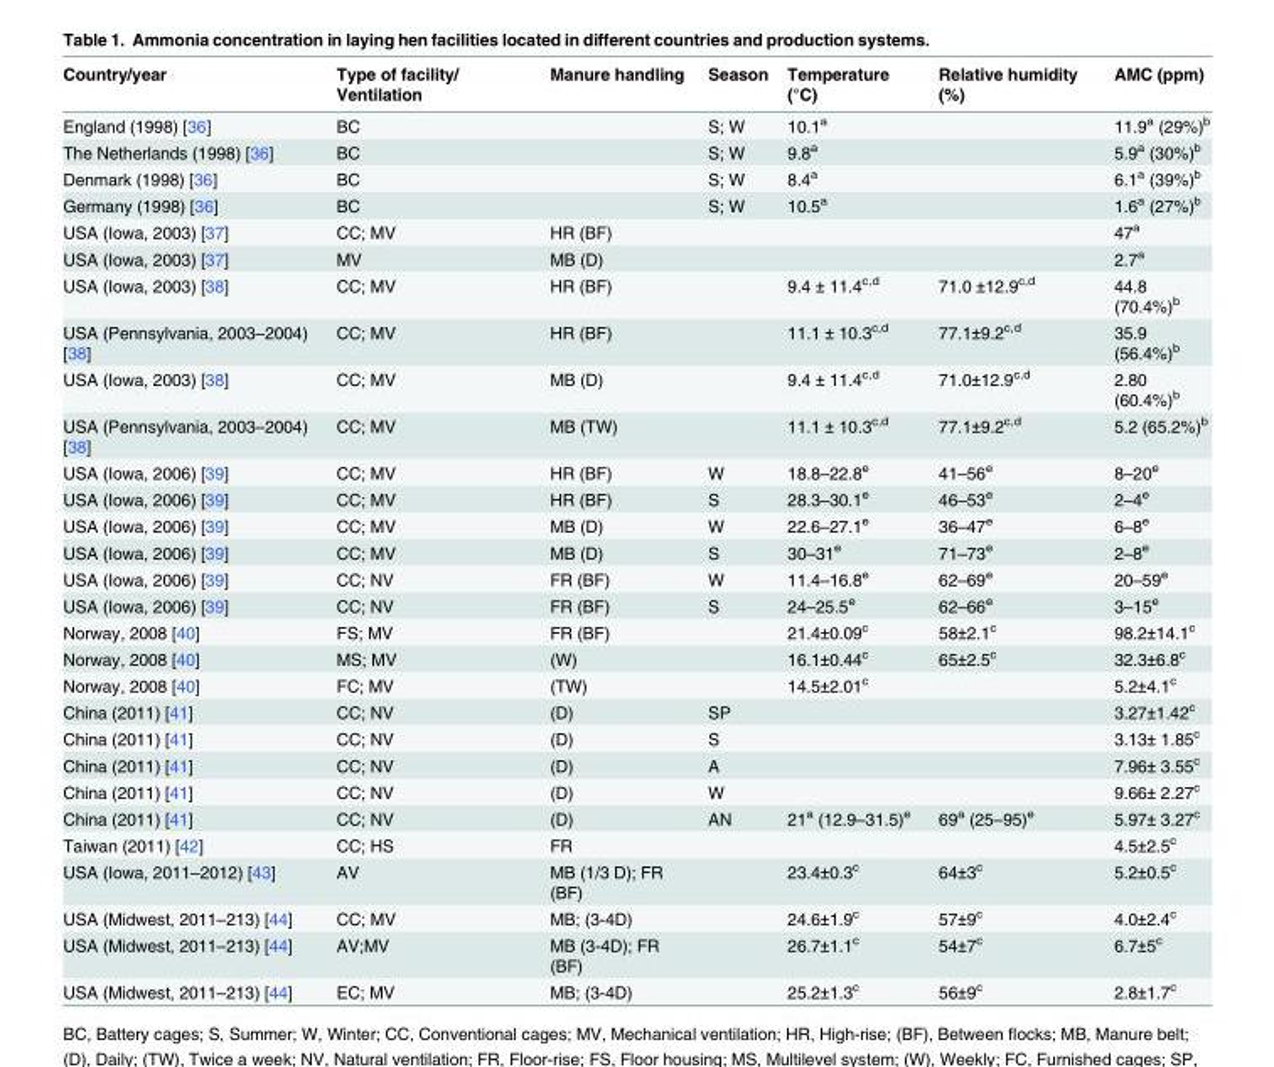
<table><thead><tr><td>Country/year</td><td>Type of facility/ Ventilation</td><td>Manure handling</td><td>Season</td><td>Temperature (°C)</td><td>Relative humidity (%)</td><td>AMC (ppm)</td></tr></thead><tbody><tr><td>England (1998) [36]</td><td>BC</td><td></td><td>S; W</td><td>10.1<sup>a</sup></td><td></td><td>11.9<sup>a</sup> (29%)<sup>b</sup></td></tr><tr><td>The Netherlands (1998) [36]</td><td>BC</td><td></td><td>S; W</td><td>9.8<sup>a</sup></td><td></td><td>5.9<sup>a</sup> (30%)<sup>b</sup></td></tr><tr><td>Denmark (1998) [36]</td><td>BC</td><td></td><td>S; W</td><td>8.4<sup>a</sup></td><td></td><td>6.1<sup>a</sup> (39%)<sup>b</sup></td></tr><tr><td>Germany (1998) [36]</td><td>BC</td><td></td><td>S; W</td><td>10.5<sup>a</sup></td><td></td><td>1.6<sup>a</sup> (27%)<sup>b</sup></td></tr><tr><td>USA (Iowa, 2003) [37]</td><td>CC; MV</td><td>HR (BF)</td><td></td><td></td><td></td><td>47<sup>a</sup></td></tr><tr><td>USA (Iowa, 2003) [37]</td><td>MV</td><td>MB (D)</td><td></td><td></td><td></td><td>2.7<sup>a</sup></td></tr><tr><td>USA (Iowa, 2003) [38]</td><td>CC; MV</td><td>HR (BF)</td><td></td><td>9.4 ± 11.4<sup>c,d</sup></td><td>71.0 ±12.9<sup>c,d</sup></td><td>44.8 (70.4%)<sup>b</sup></td></tr><tr><td>USA (Pennsylvania, 2003–2004) [38]</td><td>CC; MV</td><td>HR (BF)</td><td></td><td>11.1 ± 10.3<sup>c,d</sup></td><td>77.1±9.2<sup>c,d</sup></td><td>35.9 (56.4%)<sup>b</sup></td></tr><tr><td>USA (Iowa, 2003) [38]</td><td>CC; MV</td><td>MB (D)</td><td></td><td>9.4 ± 11.4<sup>c,d</sup></td><td>71.0±12.9<sup>c,d</sup></td><td>2.80 (60.4%)<sup>b</sup></td></tr><tr><td>USA (Pennsylvania, 2003–2004) [38]</td><td>CC; MV</td><td>MB (TW)</td><td></td><td>11.1 ± 10.3<sup>c,d</sup></td><td>77.1±9.2<sup>c,d</sup></td><td>5.2 (65.2%)<sup>b</sup></td></tr><tr><td>USA (Iowa, 2006) [39]</td><td>CC; MV</td><td>HR (BF)</td><td>W</td><td>18.8–22.8<sup>e</sup></td><td>41–56<sup>e</sup></td><td>8–20<sup>e</sup></td></tr><tr><td>USA (Iowa, 2006) [39]</td><td>CC; MV</td><td>HR (BF)</td><td>S</td><td>28.3–30.1<sup>e</sup></td><td>46–53<sup>e</sup></td><td>2–4<sup>e</sup></td></tr><tr><td>USA (Iowa, 2006) [39]</td><td>CC; MV</td><td>MB (D)</td><td>W</td><td>22.6–27.1<sup>e</sup></td><td>36–47<sup>e</sup></td><td>6–8<sup>e</sup></td></tr><tr><td>USA (Iowa, 2006) [39]</td><td>CC; MV</td><td>MB (D)</td><td>S</td><td>30–31<sup>e</sup></td><td>71–73<sup>e</sup></td><td>2–8<sup>e</sup></td></tr><tr><td>USA (Iowa, 2006) [39]</td><td>CC; NV</td><td>FR (BF)</td><td>W</td><td>11.4–16.8<sup>e</sup></td><td>62–69<sup>e</sup></td><td>20–59<sup>e</sup></td></tr><tr><td>USA (Iowa, 2006) [39]</td><td>CC; NV</td><td>FR (BF)</td><td>S</td><td>24–25.5<sup>e</sup></td><td>62–66<sup>e</sup></td><td>3–15<sup>e</sup></td></tr><tr><td>Norway, 2008 [40]</td><td>FS; MV</td><td>FR (BF)</td><td></td><td>21.4±0.09<sup>c</sup></td><td>58±2.1<sup>c</sup></td><td>98.2±14.1<sup>c</sup></td></tr><tr><td>Norway, 2008 [40]</td><td>MS; MV</td><td>(W)</td><td></td><td>16.1±0.44<sup>c</sup></td><td>65±2.5<sup>c</sup></td><td>32.3±6.8<sup>c</sup></td></tr><tr><td>Norway, 2008 [40]</td><td>FC; MV</td><td>(TW)</td><td></td><td>14.5±2.01<sup>c</sup></td><td></td><td>5.2±4.1<sup>c</sup></td></tr><tr><td>China (2011) [41]</td><td>CC; NV</td><td>(D)</td><td>SP</td><td></td><td></td><td>3.27±1.42<sup>c</sup></td></tr><tr><td>China (2011) [41]</td><td>CC; NV</td><td>(D)</td><td>S</td><td></td><td></td><td>3.13± 1.85<sup>c</sup></td></tr><tr><td>China (2011) [41]</td><td>CC; NV</td><td>(D)</td><td>A</td><td></td><td></td><td>7.96± 3.55<sup>c</sup></td></tr><tr><td>China (2011) [41]</td><td>CC; NV</td><td>(D)</td><td>W</td><td></td><td></td><td>9.66± 2.27<sup>c</sup></td></tr><tr><td>China (2011) [41]</td><td>CC; NV</td><td>(D)</td><td>AN</td><td>21<sup>a</sup> (12.9–31.5)<sup>e</sup></td><td>69<sup>a</sup> (25–95)<sup>e</sup></td><td>5.97± 3.27<sup>c</sup></td></tr><tr><td>Taiwan (2011) [42]</td><td>CC; HS</td><td>FR</td><td></td><td></td><td></td><td>4.5±2.5<sup>c</sup></td></tr><tr><td>USA (Iowa, 2011–2012) [43]</td><td>AV</td><td>MB (1/3 D); FR (BF)</td><td></td><td>23.4±0.3<sup>c</sup></td><td>64±3<sup>c</sup></td><td>5.2±0.5<sup>c</sup></td></tr><tr><td>USA (Midwest, 2011–213) [44]</td><td>CC; MV</td><td>MB; (3-4D)</td><td></td><td>24.6±1.9<sup>c</sup></td><td>57±9<sup>c</sup></td><td>4.0±2.4<sup>c</sup></td></tr><tr><td>USA (Midwest, 2011–213) [44]</td><td>AV;MV</td><td>MB (3-4D); FR (BF)</td><td></td><td>26.7±1.1<sup>c</sup></td><td>54±7<sup>c</sup></td><td>6.7±5<sup>c</sup></td></tr><tr><td>USA (Midwest, 2011–213) [44]</td><td>EC; MV</td><td>MB; (3-4D)</td><td></td><td>25.2±1.3<sup>c</sup></td><td>56±9<sup>c</sup></td><td>2.8±1.7<sup>c</sup></td></tr></tbody></table>